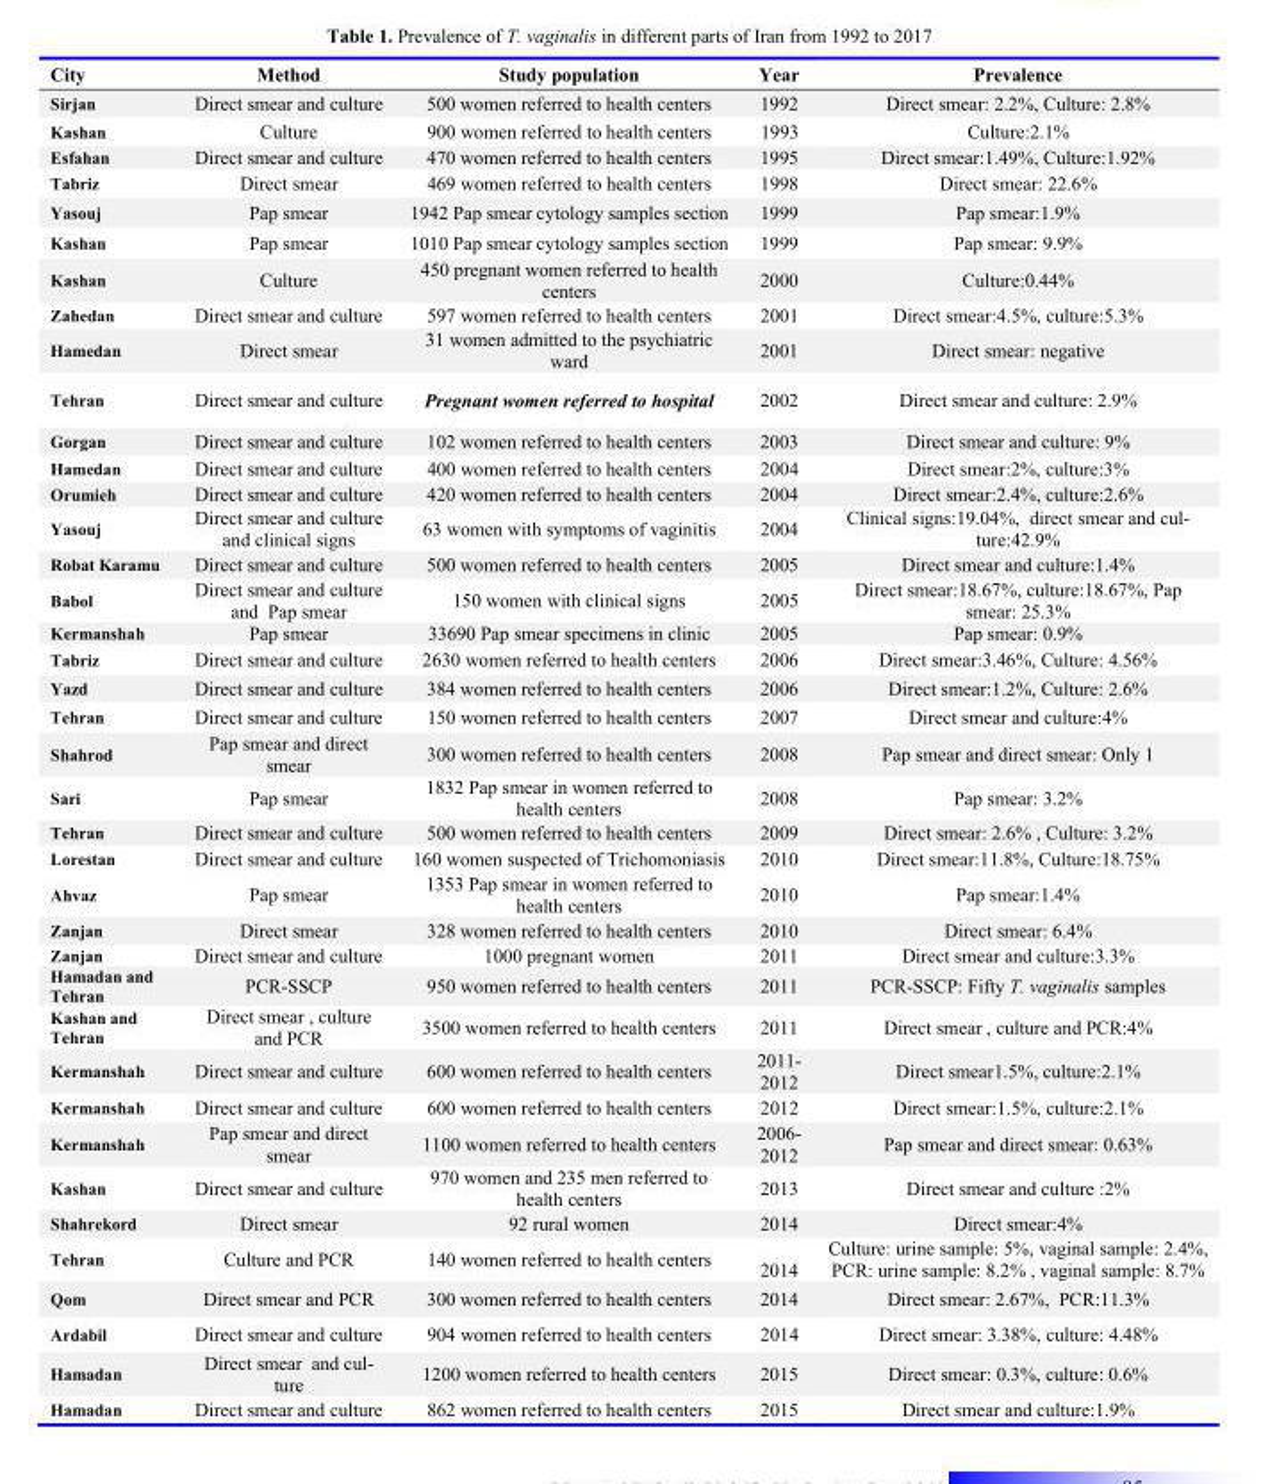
<table><thead><tr><td>City</td><td>Method</td><td>Study population</td><td>Year</td><td>Prevalence</td></tr></thead><tbody><tr><td>Sirjan</td><td>Direct smear and culture</td><td>500 women referred to health centers</td><td>1992</td><td>Direct smear: 2.2%, Culture: 2.8%</td></tr><tr><td>Kashan</td><td>Culture</td><td>900 women referred to health centers</td><td>1993</td><td>Culture:2.1%</td></tr><tr><td>Esfahan</td><td>Direct smear and culture</td><td>470 women referred to health centers</td><td>1995</td><td>Direct smear:1.49%, Culture:1.92%</td></tr><tr><td>Tabriz</td><td>Direct smear</td><td>469 women referred to health centers</td><td>1998</td><td>Direct smear: 22.6%</td></tr><tr><td>Yasouj</td><td>Pap smear</td><td>1942 Pap smear cytology samples section</td><td>1999</td><td>Pap smear:1.9%</td></tr><tr><td>Kashan</td><td>Pap smear</td><td>1010 Pap smear cytology samples section</td><td>1999</td><td>Pap smear: 9.9%</td></tr><tr><td>Kashan</td><td>Culture</td><td>450 pregnant women referred to health centers</td><td>2000</td><td>Culture:0.44%</td></tr><tr><td>Zahedan</td><td>Direct smear and culture</td><td>597 women referred to health centers</td><td>2001</td><td>Direct smear:4.5%, culture:5.3%</td></tr><tr><td>Hamedan</td><td>Direct smear</td><td>31 women admitted to the psychiatric ward</td><td>2001</td><td>Direct smear: negative</td></tr><tr><td>Tehran</td><td>Direct smear and culture</td><td>Pregnant women referred to hospital</td><td>2002</td><td>Direct smear and culture: 2.9%</td></tr><tr><td>Gorgan</td><td>Direct smear and culture</td><td>102 women referred to health centers</td><td>2003</td><td>Direct smear and culture: 9%</td></tr><tr><td>Hamedan</td><td>Direct smear and culture</td><td>400 women referred to health centers</td><td>2004</td><td>Direct smear:2%, culture:3%</td></tr><tr><td>Orumieh</td><td>Direct smear and culture</td><td>420 women referred to health centers</td><td>2004</td><td>Direct smear:2.4%, culture:2.6%</td></tr><tr><td>Yasouj</td><td>Direct smear and culture and clinical signs</td><td>63 women with symptoms of vaginitis</td><td>2004</td><td>Clinical signs:19.04%, direct smear and cul- ture:42.9%</td></tr><tr><td>Robat Karamu</td><td>Direct smear and culture</td><td>500 women referred to health centers</td><td>2005</td><td>Direct smear and culture:1.4%</td></tr><tr><td>Babol</td><td>Direct smear and culture and Pap smear</td><td>150 women with clinical signs</td><td>2005</td><td>Direct smear:18.67%, culture:18.67%, Pap smear: 25.3%</td></tr><tr><td>Kermanshah</td><td>Pap smear</td><td>33690 Pap smear specimens in clinic</td><td>2005</td><td>Pap smear: 0.9%</td></tr><tr><td>Tabriz</td><td>Direct smear and culture</td><td>2630 women referred to health centers</td><td>2006</td><td>Direct smear:3.46%, Culture: 4.56%</td></tr><tr><td>Yazd</td><td>Direct smear and culture</td><td>384 women referred to health centers</td><td>2006</td><td>Direct smear:1.2%, Culture: 2.6%</td></tr><tr><td>Tehran</td><td>Direct smear and culture</td><td>150 women referred to health centers</td><td>2007</td><td>Direct smear and culture:4%</td></tr><tr><td>Shahrod</td><td>Pap smear and direct smear</td><td>300 women referred to health centers</td><td>2008</td><td>Pap smear and direct smear: Only 1</td></tr><tr><td>Sari</td><td>Pap smear</td><td>1832 Pap smear in women referred to health centers</td><td>2008</td><td>Pap smear: 3.2%</td></tr><tr><td>Tehran</td><td>Direct smear and culture</td><td>500 women referred to health centers</td><td>2009</td><td>Direct smear: 2.6% , Culture: 3.2%</td></tr><tr><td>Lorestan</td><td>Direct smear and culture</td><td>160 women suspected of Trichomoniasis</td><td>2010</td><td>Direct smear:11.8%, Culture:18.75%</td></tr><tr><td>Ahvaz</td><td>Pap smear</td><td>1353 Pap smear in women referred to health centers</td><td>2010</td><td>Pap smear:1.4%</td></tr><tr><td>Zanjan</td><td>Direct smear</td><td>328 women referred to health centers</td><td>2010</td><td>Direct smear: 6.4%</td></tr><tr><td>Zanjan</td><td>Direct smear and culture</td><td>1000 pregnant women</td><td>2011</td><td>Direct smear and culture:3.3%</td></tr><tr><td>Hamadan and Tehran</td><td>PCR-SSCP</td><td>950 women referred to health centers</td><td>2011</td><td>PCR-SSCP: Fifty T. vaginalis samples</td></tr><tr><td>Kashan and Tehran</td><td>Direct smear , culture and PCR</td><td>3500 women referred to health centers</td><td>2011</td><td>Direct smear , culture and PCR:4%</td></tr><tr><td>Kermanshah</td><td>Direct smear and culture</td><td>600 women referred to health centers</td><td>2011- 2012</td><td>Direct smear1.5%, culture:2.1%</td></tr><tr><td>Kermanshah</td><td>Direct smear and culture</td><td>600 women referred to health centers</td><td>2012</td><td>Direct smear:1.5%, culture:2.1%</td></tr><tr><td>Kermanshah</td><td>Pap smear and direct smear</td><td>1100 women referred to health centers</td><td>2006- 2012</td><td>Pap smear and direct smear: 0.63%</td></tr><tr><td>Kashan</td><td>Direct smear and culture</td><td>970 women and 235 men referred to health centers</td><td>2013</td><td>Direct smear and culture :2%</td></tr><tr><td>Shahrekord</td><td>Direct smear</td><td>92 rural women</td><td>2014</td><td>Direct smear:4%</td></tr><tr><td>Tehran</td><td>Culture and PCR</td><td>140 women referred to health centers</td><td>2014</td><td>Culture: urine sample: 5%, vaginal sample: 2.4%, PCR: urine sample: 8.2% , vaginal sample: 8.7%</td></tr><tr><td>Qom</td><td>Direct smear and PCR</td><td>300 women referred to health centers</td><td>2014</td><td>Direct smear: 2.67%, PCR:11.3%</td></tr><tr><td>Ardabil</td><td>Direct smear and culture</td><td>904 women referred to health centers</td><td>2014</td><td>Direct smear: 3.38%, culture: 4.48%</td></tr><tr><td>Hamadan</td><td>Direct smear and cul- ture</td><td>1200 women referred to health centers</td><td>2015</td><td>Direct smear: 0.3%, culture: 0.6%</td></tr><tr><td>Hamadan</td><td>Direct smear and culture</td><td>862 women referred to health centers</td><td>2015</td><td>Direct smear and culture:1.9%</td></tr></tbody></table>